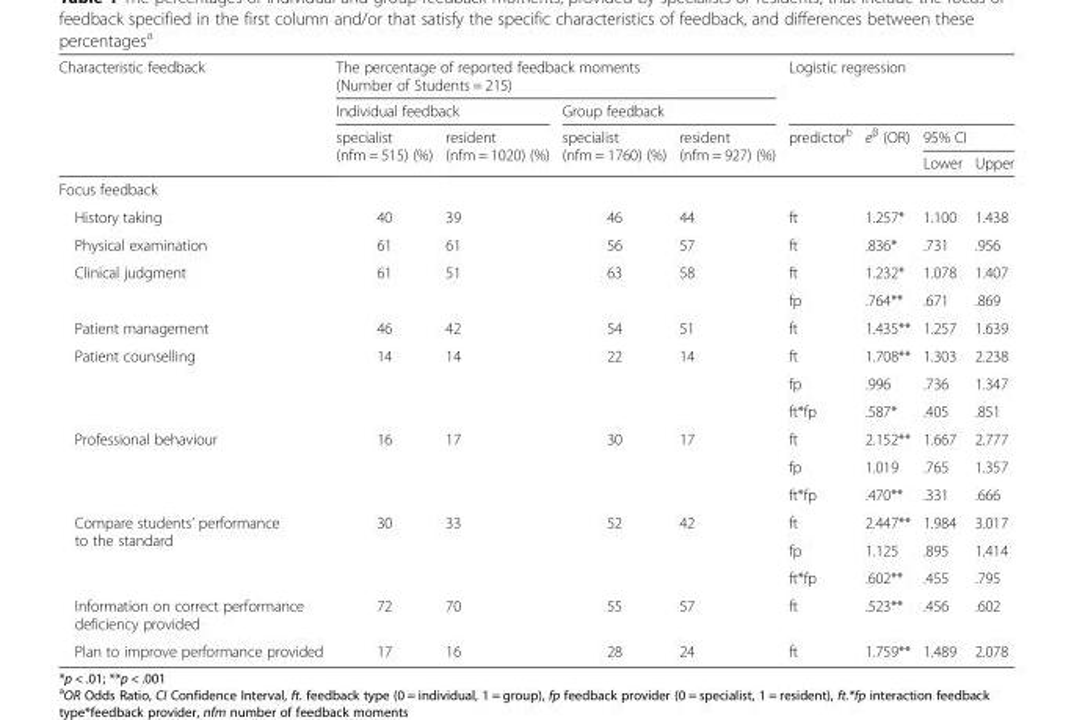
<table><thead><tr><td rowspan="4">Characteristic feedback</td><td colspan="4">The percentage of reported feedback moments (Number of Students = 215)</td><td rowspan="2" colspan="4">Logistic regression</td></tr><tr><td colspan="2">Individual feedback</td><td colspan="2">Group feedback</td></tr><tr><td rowspan="2">specialist (nfm = 515) (%)</td><td rowspan="2">resident (nfm = 1020) (%)</td><td rowspan="2">specialist (nfm = 1760) (%)</td><td rowspan="2">resident (nfm = 927) (%)</td><td rowspan="2">predictor<sup>b</sup></td><td rowspan="2">e<sup>β</sup> (OR)</td><td colspan="2">95% CI</td></tr><tr><td>Lower</td><td>Upper</td></tr></thead><tbody><tr><td colspan="9">Focus feedback</td></tr><tr><td>History taking</td><td>40</td><td>39</td><td>46</td><td>44</td><td>ft</td><td>1.257*</td><td>1.100</td><td>1.438</td></tr><tr><td>Physical examination</td><td>61</td><td>61</td><td>56</td><td>57</td><td>ft</td><td>.836*</td><td>.731</td><td>.956</td></tr><tr><td rowspan="2">Clinical judgment</td><td>61</td><td>51</td><td>63</td><td>58</td><td>ft</td><td>1.232*</td><td>1.078</td><td>1.407</td></tr><tr><td></td><td></td><td></td><td></td><td>fp</td><td>.764**</td><td>.671</td><td>.869</td></tr><tr><td>Patient management</td><td>46</td><td>42</td><td>54</td><td>51</td><td>ft</td><td>1.435**</td><td>1.257</td><td>1.639</td></tr><tr><td rowspan="3">Patient counselling</td><td>14</td><td>14</td><td>22</td><td>14</td><td>ft</td><td>1.708**</td><td>1.303</td><td>2.238</td></tr><tr><td></td><td></td><td></td><td></td><td>fp</td><td>.996</td><td>.736</td><td>1.347</td></tr><tr><td></td><td></td><td></td><td></td><td>ft*fp</td><td>.587*</td><td>.405</td><td>.851</td></tr><tr><td rowspan="3">Professional behaviour</td><td>16</td><td>17</td><td>30</td><td>17</td><td>ft</td><td>2.152**</td><td>1.667</td><td>2.777</td></tr><tr><td></td><td></td><td></td><td></td><td>fp</td><td>1.019</td><td>.765</td><td>1.357</td></tr><tr><td></td><td></td><td></td><td></td><td>ft*fp</td><td>.470**</td><td>.331</td><td>.666</td></tr><tr><td rowspan="3">Compare students’ performance to the standard</td><td>30</td><td>33</td><td>52</td><td>42</td><td>ft</td><td>2.447**</td><td>1.984</td><td>3.017</td></tr><tr><td></td><td></td><td></td><td></td><td>fp</td><td>1.125</td><td>.895</td><td>1.414</td></tr><tr><td></td><td></td><td></td><td></td><td>ft*fp</td><td>.602**</td><td>.455</td><td>.795</td></tr><tr><td>Information on correct performance deficiency provided</td><td>72</td><td>70</td><td>55</td><td>57</td><td>ft</td><td>.523**</td><td>.456</td><td>.602</td></tr><tr><td>Plan to improve performance provided</td><td>17</td><td>16</td><td>28</td><td>24</td><td>ft</td><td>1.759**</td><td>1.489</td><td>2.078</td></tr></tbody></table>